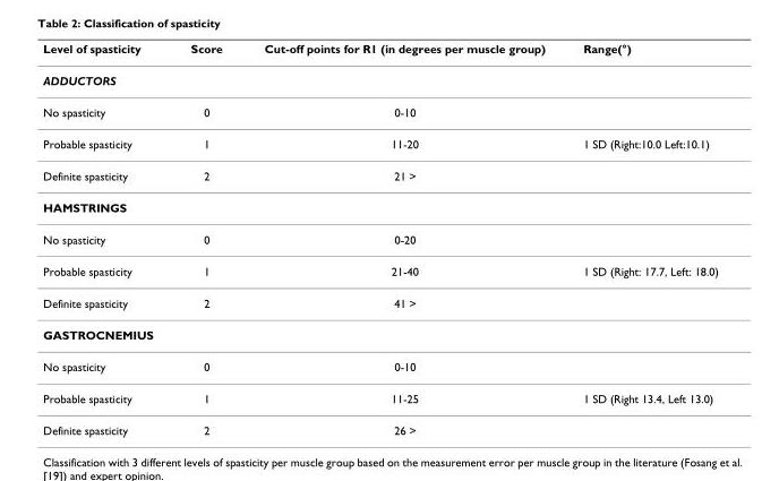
<table><thead><tr><td>Level of spasticity</td><td>Score</td><td>Cut-off points for R1 (in degrees per muscle group)</td><td>Range(°)</td></tr></thead><tbody><tr><td colspan="4">ADDUCTORS</td></tr><tr><td>No spasticity</td><td>0</td><td>0-10</td><td></td></tr><tr><td>Probable spasticity</td><td>1</td><td>11-20</td><td>1 SD (Right:10.0 Left:10.1)</td></tr><tr><td>Definite spasticity</td><td>2</td><td>21 &gt;</td><td></td></tr><tr><td colspan="4">HAMSTRINGS</td></tr><tr><td>No spasticity</td><td>0</td><td>0-20</td><td></td></tr><tr><td>Probable spasticity</td><td>1</td><td>21-40</td><td>1 SD (Right: 17.7, Left: 18.0)</td></tr><tr><td>Definite spasticity</td><td>2</td><td>41 &gt;</td><td></td></tr><tr><td colspan="4">GASTROCNEMIUS</td></tr><tr><td>No spasticity</td><td>0</td><td>0-10</td><td></td></tr><tr><td>Probable spasticity</td><td>1</td><td>11-25</td><td>1 SD (Right 13.4, Left 13.0)</td></tr><tr><td>Definite spasticity</td><td>2</td><td>26 &gt;</td><td></td></tr></tbody></table>